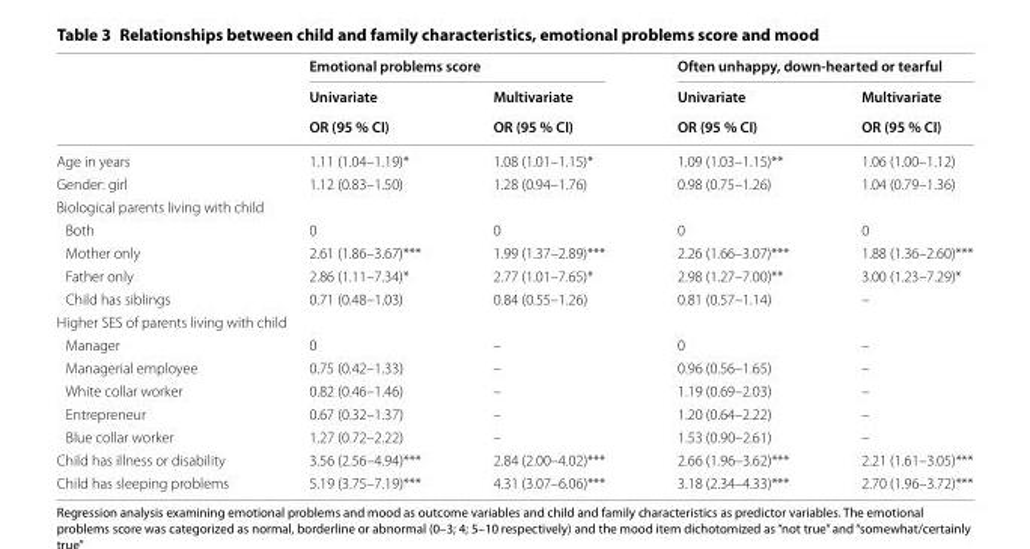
<table><thead><tr><td rowspan="3"></td><td colspan="2">Emotional problems score</td><td colspan="2">Often unhappy, down-hearted or tearful</td></tr><tr><td rowspan="2">Univariate OR (95 % CI)</td><td rowspan="2">Multivariate OR (95 % CI)</td><td rowspan="2">Univariate OR (95 % CI)</td><td rowspan="2">Multivariate OR (95 % CI)</td></tr><tr></tr></thead><tbody><tr><td>Age in years</td><td>1.11 (1.04–1.19)*</td><td>1.08 (1.01–1.15)*</td><td>1.09 (1.03–1.15)**</td><td>1.06 (1.00–1.12)</td></tr><tr><td>Gender: girl</td><td>1.12 (0.83–1.50)</td><td>1.28 (0.94–1.76)</td><td>0.98 (0.75–1.26)</td><td>1.04 (0.79–1.36)</td></tr><tr><td colspan="5">Biological parents living with child</td></tr><tr><td>Both</td><td>0</td><td>0</td><td>0</td><td>0</td></tr><tr><td>Mother only</td><td>2.61 (1.86–3.67)***</td><td>1.99 (1.37–2.89)***</td><td>2.26 (1.66–3.07)***</td><td>1.88 (1.36–2.60)***</td></tr><tr><td>Father only</td><td>2.86 (1.11–7.34)*</td><td>2.77 (1.01–7.65)*</td><td>2.98 (1.27–7.00)**</td><td>3.00 (1.23–7.29)*</td></tr><tr><td>Child has siblings</td><td>0.71 (0.48–1.03)</td><td>0.84 (0.55–1.26)</td><td>0.81 (0.57–1.14)</td><td>–</td></tr><tr><td colspan="5">Higher SES of parents living with child</td></tr><tr><td>Manager</td><td>0</td><td>–</td><td>0</td><td>–</td></tr><tr><td>Managerial employee</td><td>0.75 (0.42–1.33)</td><td>–</td><td>0.96 (0.56–1.65)</td><td>–</td></tr><tr><td>White collar worker</td><td>0.82 (0.46–1.46)</td><td>–</td><td>1.19 (0.69–2.03)</td><td>–</td></tr><tr><td>Entrepreneur</td><td>0.67 (0.32–1.37)</td><td>–</td><td>1.20 (0.64–2.22)</td><td>–</td></tr><tr><td>Blue collar worker</td><td>1.27 (0.72–2.22)</td><td>–</td><td>1.53 (0.90–2.61)</td><td>–</td></tr><tr><td>Child has illness or disability</td><td>3.56 (2.56–4.94)***</td><td>2.84 (2.00–4.02)***</td><td>2.66 (1.96–3.62)***</td><td>2.21 (1.61–3.05)***</td></tr><tr><td>Child has sleeping problems</td><td>5.19 (3.75–7.19)***</td><td>4.31 (3.07–6.06)***</td><td>3.18 (2.34–4.33)***</td><td>2.70 (1.96–3.72)***</td></tr></tbody></table>